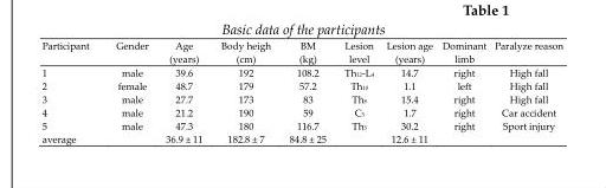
<table><thead><tr><td>Participant</td><td>Gender</td><td>Age (years)</td><td>Body heigh (cm)</td><td>BM (kg)</td><td>Lesion level</td><td>Lesion age (years)</td><td>Dominant limb</td><td>Paralyze reason</td></tr></thead><tbody><tr><td>1</td><td>male</td><td>39.6</td><td>192</td><td>108.2</td><td>Th<sub>12</sub>-L<sub>4</sub></td><td>14.7</td><td>right</td><td>High fall</td></tr><tr><td>2</td><td>female</td><td>48.7</td><td>179</td><td>57.2</td><td>Th<sub>10</sub></td><td>1.1</td><td>left</td><td>High fall</td></tr><tr><td>3</td><td>male</td><td>27.7</td><td>173</td><td>83</td><td>Th<sub>8</sub></td><td>15.4</td><td>right</td><td>High fall</td></tr><tr><td>4</td><td>male</td><td>21.2</td><td>190</td><td>59</td><td>C<sub>5</sub></td><td>1.7</td><td>right</td><td>Car accident</td></tr><tr><td>5</td><td>male</td><td>47.3</td><td>180</td><td>116.7</td><td>Th<sub>5</sub></td><td>30.2</td><td>right</td><td>Sport injury</td></tr><tr><td>average</td><td></td><td>36.9 ± 11</td><td>182.8 ± 7</td><td>84.8 ± 25</td><td></td><td>12.6 ± 11</td><td></td><td></td></tr></tbody></table>